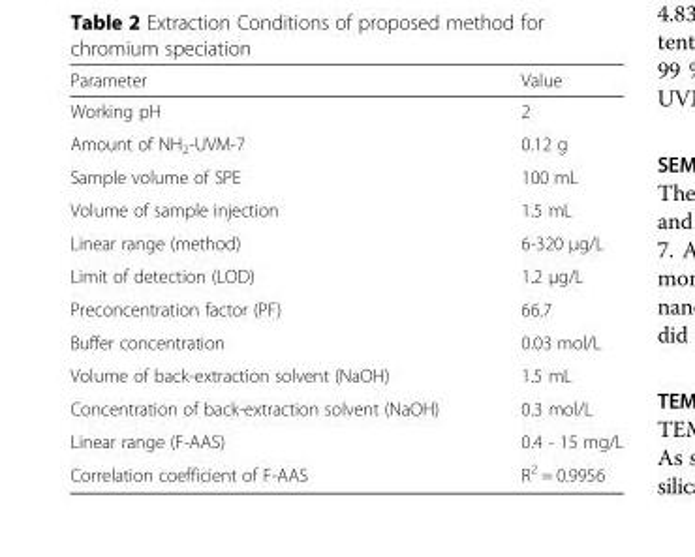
<table><thead><tr><td>Parameter</td><td>Value</td></tr></thead><tbody><tr><td>Working pH</td><td>2</td></tr><tr><td>Amount of NH<sub>2</sub>-UVM-7</td><td>0.12 g</td></tr><tr><td>Sample volume of SPE</td><td>100 mL</td></tr><tr><td>Volume of sample injection</td><td>1.5 mL</td></tr><tr><td>Linear range (method)</td><td>6-320 μg/L</td></tr><tr><td>Limit of detection (LOD)</td><td>1.2 μg/L</td></tr><tr><td>Preconcentration factor (PF)</td><td>66.7</td></tr><tr><td>Buffer concentration</td><td>0.03 mol/L</td></tr><tr><td>Volume of back-extraction solvent (NaOH)</td><td>1.5 mL</td></tr><tr><td>Concentration of back-extraction solvent (NaOH)</td><td>0.3 mol/L</td></tr><tr><td>Linear range (F-AAS)</td><td>0.4 - 15 mg/L</td></tr><tr><td>Correlation coefficient of F-AAS</td><td>R<sup>2</sup> = 0.9956</td></tr></tbody></table>